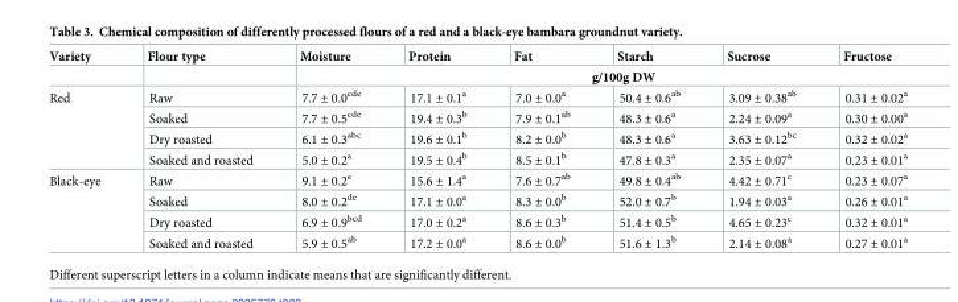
<table><thead><tr><td rowspan="2">Variety</td><td rowspan="2">Flour type</td><td>Moisture</td><td>Protein</td><td>Fat</td><td>Starch</td><td>Sucrose</td><td>Fructose</td></tr><tr><td colspan="6">g/100g DW</td></tr></thead><tbody><tr><td rowspan="4">Red</td><td>Raw</td><td>7.7 ± 0.0<sup>cde</sup></td><td>17.1 ± 0.1<sup>a</sup></td><td>7.0 ± 0.0<sup>a</sup></td><td>50.4 ± 0.6<sup>ab</sup></td><td>3.09 ± 0.38<sup>ab</sup></td><td>0.31 ± 0.02<sup>a</sup></td></tr><tr><td>Soaked</td><td>7.7 ± 0.5<sup>cde</sup></td><td>19.4 ± 0.3<sup>b</sup></td><td>7.9 ± 0.1<sup>ab</sup></td><td>48.3 ± 0.6<sup>a</sup></td><td>2.24 ± 0.09<sup>a</sup></td><td>0.30 ± 0.00<sup>a</sup></td></tr><tr><td>Dry roasted</td><td>6.1 ± 0.3<sup>abc</sup></td><td>19.6 ± 0.1<sup>b</sup></td><td>8.2 ± 0.0<sup>b</sup></td><td>48.3 ± 0.6<sup>a</sup></td><td>3.63 ± 0.12<sup>bc</sup></td><td>0.32 ± 0.02<sup>a</sup></td></tr><tr><td>Soaked and roasted</td><td>5.0 ± 0.2<sup>a</sup></td><td>19.5 ± 0.4<sup>b</sup></td><td>8.5 ± 0.1<sup>b</sup></td><td>47.8 ± 0.3<sup>a</sup></td><td>2.35 ± 0.07<sup>a</sup></td><td>0.23 ± 0.01<sup>a</sup></td></tr><tr><td rowspan="4">Black-eye</td><td>Raw</td><td>9.1 ± 0.2<sup>e</sup></td><td>15.6 ± 1.4<sup>a</sup></td><td>7.6 ± 0.7<sup>ab</sup></td><td>49.8 ± 0.4<sup>ab</sup></td><td>4.42 ± 0.71<sup>c</sup></td><td>0.23 ± 0.07<sup>a</sup></td></tr><tr><td>Soaked</td><td>8.0 ± 0.2<sup>de</sup></td><td>17.1 ± 0.0<sup>a</sup></td><td>8.3 ± 0.0<sup>b</sup></td><td>52.0 ± 0.7<sup>b</sup></td><td>1.94 ± 0.03<sup>a</sup></td><td>0.26 ± 0.01<sup>a</sup></td></tr><tr><td>Dry roasted</td><td>6.9 ± 0.9<sup>bcd</sup></td><td>17.0 ± 0.2<sup>a</sup></td><td>8.6 ± 0.3<sup>b</sup></td><td>51.4 ± 0.5<sup>b</sup></td><td>4.65 ± 0.23<sup>c</sup></td><td>0.32 ± 0.01<sup>a</sup></td></tr><tr><td>Soaked and roasted</td><td>5.9 ± 0.5<sup>ab</sup></td><td>17.2 ± 0.0<sup>a</sup></td><td>8.6 ± 0.0<sup>b</sup></td><td>51.6 ± 1.3<sup>b</sup></td><td>2.14 ± 0.08<sup>a</sup></td><td>0.27 ± 0.01<sup>a</sup></td></tr></tbody></table>